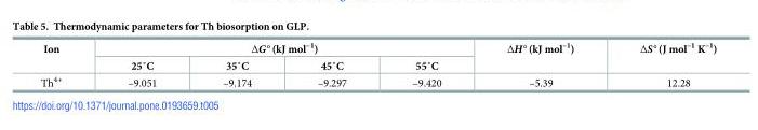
<table><thead><tr><td rowspan="2">Ion</td><td colspan="4">∆G° (kJ mol<sup>–1</sup>)</td><td rowspan="2">∆H° (kJ mol<sup>–1</sup>)</td><td rowspan="2">∆S° (J mol<sup>–1</sup> K<sup>–1</sup>)</td></tr><tr><td>25˚C</td><td>35˚C</td><td>45˚C</td><td>55˚C</td></tr></thead><tbody><tr><td>Th<sup>4+</sup></td><td>–9.051</td><td>–9.174</td><td>–9.297</td><td>–9.420</td><td>–5.39</td><td>12.28</td></tr></tbody></table>